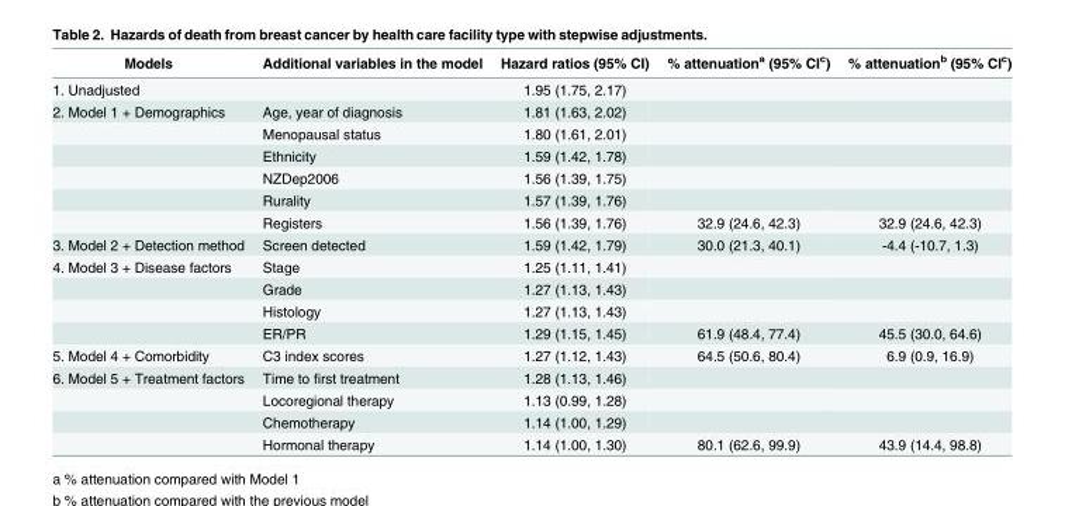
<table><thead><tr><td>Models</td><td>Additional variables in the model</td><td>Hazard ratios (95% CI)</td><td>% attenuation<sup>a</sup> (95% CI<sup>c</sup>)</td><td>% attenuation<sup>b</sup> (95% CI<sup>c</sup>)</td></tr></thead><tbody><tr><td>1. Unadjusted</td><td></td><td>1.95 (1.75, 2.17)</td><td></td><td></td></tr><tr><td rowspan="6">2. Model 1 + Demographics</td><td>Age, year of diagnosis</td><td>1.81 (1.63, 2.02)</td><td></td><td></td></tr><tr><td>Menopausal status</td><td>1.80 (1.61, 2.01)</td><td></td><td></td></tr><tr><td>Ethnicity</td><td>1.59 (1.42, 1.78)</td><td></td><td></td></tr><tr><td>NZDep2006</td><td>1.56 (1.39, 1.75)</td><td></td><td></td></tr><tr><td>Rurality</td><td>1.57 (1.39, 1.76)</td><td></td><td></td></tr><tr><td>Registers</td><td>1.56 (1.39, 1.76)</td><td>32.9 (24.6, 42.3)</td><td>32.9 (24.6, 42.3)</td></tr><tr><td>3. Model 2 + Detection method</td><td>Screen detected</td><td>1.59 (1.42, 1.79)</td><td>30.0 (21.3, 40.1)</td><td>-4.4 (-10.7, 1.3)</td></tr><tr><td rowspan="4">4. Model 3 + Disease factors</td><td>Stage</td><td>1.25 (1.11, 1.41)</td><td></td><td></td></tr><tr><td>Grade</td><td>1.27 (1.13, 1.43)</td><td></td><td></td></tr><tr><td>Histology</td><td>1.27 (1.13, 1.43)</td><td></td><td></td></tr><tr><td>ER/PR</td><td>1.29 (1.15, 1.45)</td><td>61.9 (48.4, 77.4)</td><td>45.5 (30.0, 64.6)</td></tr><tr><td>5. Model 4 + Comorbidity</td><td>C3 index scores</td><td>1.27 (1.12, 1.43)</td><td>64.5 (50.6, 80.4)</td><td>6.9 (0.9, 16.9)</td></tr><tr><td rowspan="4">6. Model 5 + Treatment factors</td><td>Time to first treatment</td><td>1.28 (1.13, 1.46)</td><td></td><td></td></tr><tr><td>Locoregional therapy</td><td>1.13 (0.99, 1.28)</td><td></td><td></td></tr><tr><td>Chemotherapy</td><td>1.14 (1.00, 1.29)</td><td></td><td></td></tr><tr><td>Hormonal therapy</td><td>1.14 (1.00, 1.30)</td><td>80.1 (62.6, 99.9)</td><td>43.9 (14.4, 98.8)</td></tr></tbody></table>